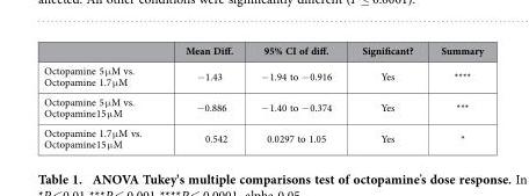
<table><thead><tr><td></td><td>Mean Diff.</td><td>95% CI of diff.</td><td>Significant?</td><td>Summary</td></tr></thead><tbody><tr><td>Octopamine 5 μ M vs. Octopamine 1.7 μ M</td><td>−1.43</td><td>− 1.94 to − 0.916</td><td>Yes</td><td>****</td></tr><tr><td>Octopamine 5 μ M vs. Octopamine15 μ M</td><td>−0.886</td><td>− 1.40 to − 0.374</td><td>Yes</td><td>***</td></tr><tr><td>Octopamine 1.7 μ M vs. Octopamine15 μ M</td><td>0.542</td><td>0.0297 to 1.05</td><td>Yes</td><td>*</td></tr></tbody></table>